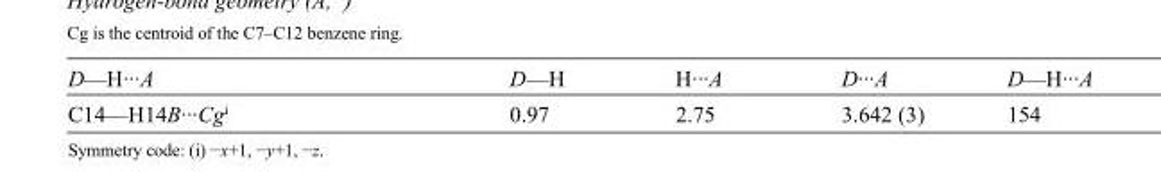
<table><tbody><tr><td>D—H···A</td><td>D—H</td><td>H···A</td><td>D···A</td><td>D—H···A</td></tr><tr><td>C14—H14B···Cg<sup>i</sup></td><td>0.97</td><td>2.75</td><td>3.642 (3)</td><td>154</td></tr></tbody></table>